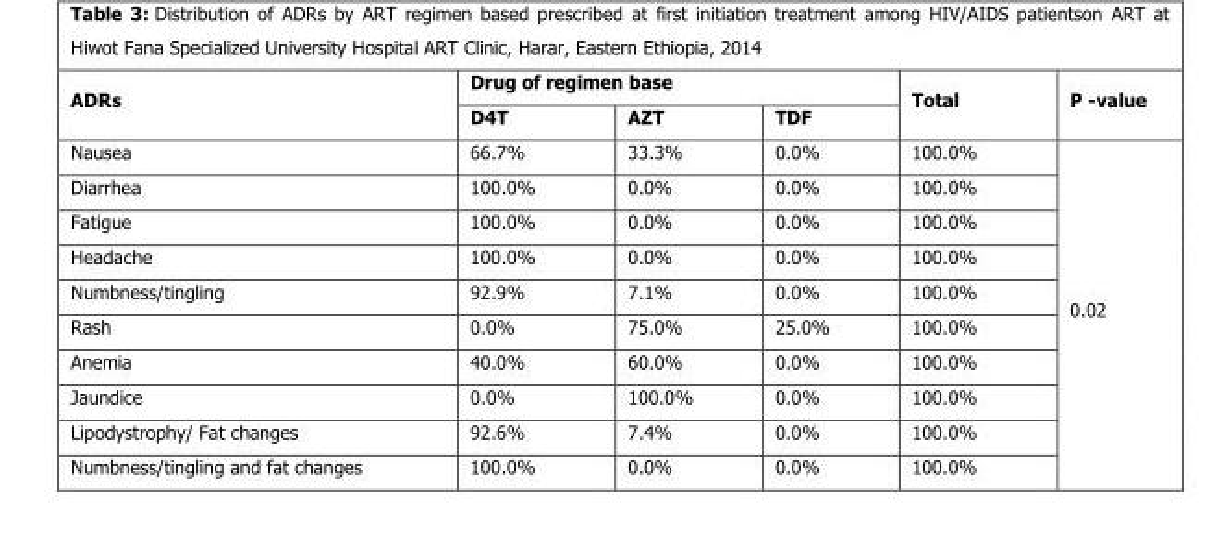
<table><thead><tr><td rowspan="2">ADRs</td><td colspan="3">Drug of regimen base</td><td rowspan="2">Total</td><td rowspan="2">P -value</td></tr><tr><td>D4T</td><td>AZT</td><td>TDF</td></tr></thead><tbody><tr><td>Nausea</td><td>66.7%</td><td>33.3%</td><td>0.0%</td><td>100.0%</td><td rowspan="10">0.02</td></tr><tr><td>Diarrhea</td><td>100.0%</td><td>0.0%</td><td>0.0%</td><td>100.0%</td></tr><tr><td>Fatigue</td><td>100.0%</td><td>0.0%</td><td>0.0%</td><td>100.0%</td></tr><tr><td>Headache</td><td>100.0%</td><td>0.0%</td><td>0.0%</td><td>100.0%</td></tr><tr><td>Numbness/tingling</td><td>92.9%</td><td>7.1%</td><td>0.0%</td><td>100.0%</td></tr><tr><td>Rash</td><td>0.0%</td><td>75.0%</td><td>25.0%</td><td>100.0%</td></tr><tr><td>Anemia</td><td>40.0%</td><td>60.0%</td><td>0.0%</td><td>100.0%</td></tr><tr><td>Jaundice</td><td>0.0%</td><td>100.0%</td><td>0.0%</td><td>100.0%</td></tr><tr><td>Lipodystrophy/ Fat changes</td><td>92.6%</td><td>7.4%</td><td>0.0%</td><td>100.0%</td></tr><tr><td>Numbness/tingling and fat changes</td><td>100.0%</td><td>0.0%</td><td>0.0%</td><td>100.0%</td></tr></tbody></table>